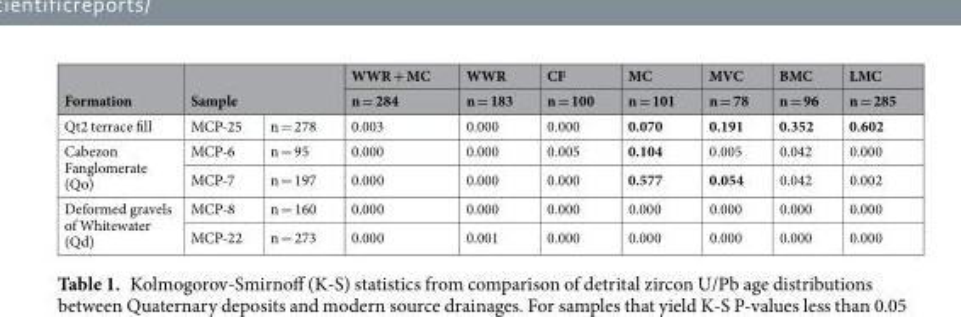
<table><thead><tr><td rowspan="3">Formation Qt2 terrace fill</td><td rowspan="2" colspan="2">Sample</td><td rowspan="3">WWR + MC n = 284 0.003</td><td rowspan="3">WWR n = 183 0.000</td><td rowspan="3">CF n = 100 0.000</td><td rowspan="3">MC n = 101 0.070</td><td rowspan="3">MVC n = 78 0.191</td><td rowspan="3">BMC n = 96 0.352</td><td rowspan="3">LMC n = 285 0.602</td></tr><tr></tr><tr><td>MCP-25</td><td>n = 278</td></tr></thead><tbody><tr><td rowspan="2">Cabezon Fanglomerate (Qo)</td><td>MCP-6</td><td>n = 95</td><td>0.000</td><td>0.000</td><td>0.005</td><td>0.104</td><td>0.005</td><td>0.042</td><td>0.000</td></tr><tr><td>MCP-7</td><td>n = 197</td><td>0.000</td><td>0.000</td><td>0.000</td><td>0.577</td><td>0.054</td><td>0.042</td><td>0.002</td></tr><tr><td rowspan="2">Deformed gravels of Whitewater (Qd)</td><td>MCP-8</td><td>n = 160</td><td>0.000</td><td>0.000</td><td>0.000</td><td>0.000</td><td>0.000</td><td>0.000</td><td>0.000</td></tr><tr><td>MCP-22</td><td>n = 273</td><td>0.000</td><td>0.001</td><td>0.000</td><td>0.000</td><td>0.000</td><td>0.000</td><td>0.000</td></tr></tbody></table>